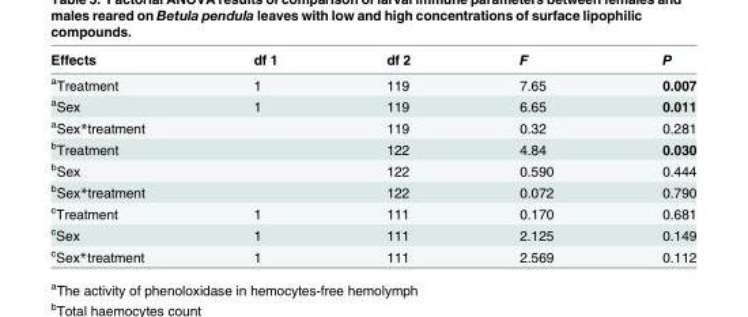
<table><thead><tr><td>Effects</td><td>df 1</td><td>df 2</td><td>F</td><td>P</td></tr></thead><tbody><tr><td><sup>a</sup>Treatment</td><td>1</td><td>119</td><td>7.65</td><td>0.007</td></tr><tr><td><sup>a</sup>Sex</td><td>1</td><td>119</td><td>6.65</td><td>0.011</td></tr><tr><td><sup>a</sup>Sex*treatment</td><td></td><td>119</td><td>0.32</td><td>0.281</td></tr><tr><td><sup>b</sup>Treatment</td><td></td><td>122</td><td>4.84</td><td>0.030</td></tr><tr><td><sup>b</sup>Sex</td><td></td><td>122</td><td>0.590</td><td>0.444</td></tr><tr><td><sup>b</sup>Sex*treatment</td><td></td><td>122</td><td>0.072</td><td>0.790</td></tr><tr><td><sup>c</sup>Treatment</td><td>1</td><td>111</td><td>0.170</td><td>0.681</td></tr><tr><td><sup>c</sup>Sex</td><td>1</td><td>111</td><td>2.125</td><td>0.149</td></tr><tr><td><sup>c</sup>Sex*treatment</td><td>1</td><td>111</td><td>2.569</td><td>0.112</td></tr></tbody></table>